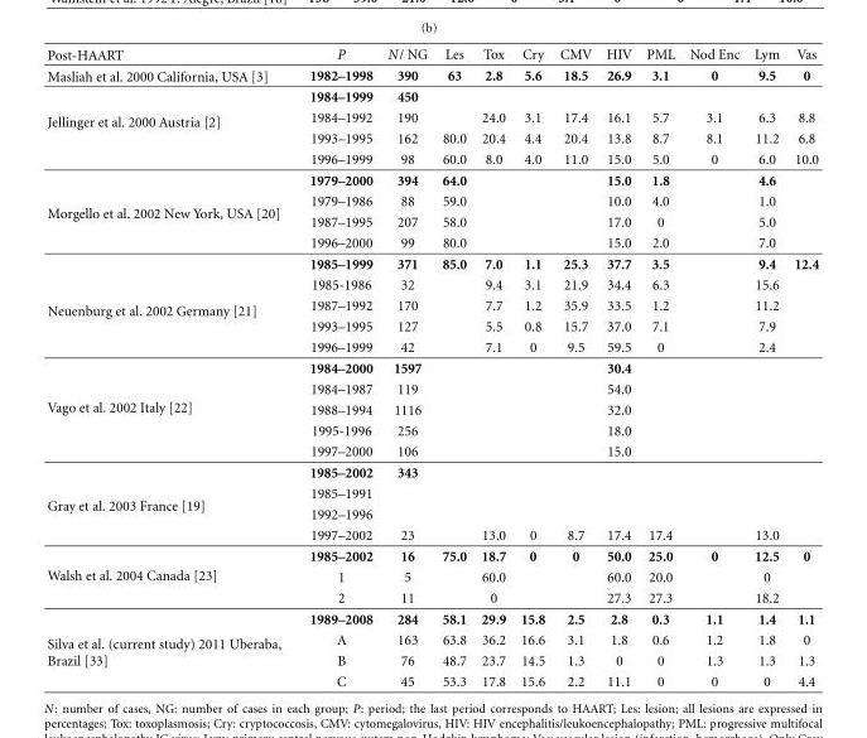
<table><thead><tr><td>Post-HAART</td><td>P</td><td>N/ NG</td><td>Les</td><td>Tox</td><td>Cry</td><td>CMV</td><td>HIV</td><td>PML</td><td>Nod Enc</td><td>Lym</td><td>Vas</td></tr></thead><tbody><tr><td>Masliah et al. 2000 California, USA [3]</td><td>1982–1998</td><td>390</td><td>63</td><td>2.8</td><td>5.6</td><td>18.5</td><td>26.9</td><td>3.1</td><td>0</td><td>9.5</td><td>0</td></tr><tr><td rowspan="4">Jellinger et al. 2000 Austria [2]</td><td>1984–1999</td><td>450</td><td></td><td></td><td></td><td></td><td></td><td></td><td></td><td></td><td></td></tr><tr><td>1984–1992</td><td>190</td><td></td><td>24.0</td><td>3.1</td><td>17.4</td><td>16.1</td><td>5.7</td><td>3.1</td><td>6.3</td><td>8.8</td></tr><tr><td>1993–1995</td><td>162</td><td>80.0</td><td>20.4</td><td>4.4</td><td>20.4</td><td>13.8</td><td>8.7</td><td>8.1</td><td>11.2</td><td>6.8</td></tr><tr><td>1996–1999</td><td>98</td><td>60.0</td><td>8.0</td><td>4.0</td><td>11.0</td><td>15.0</td><td>5.0</td><td>0</td><td>6.0</td><td>10.0</td></tr><tr><td rowspan="4">Morgello et al. 2002 New York, USA [20]</td><td>1979–2000</td><td>394</td><td>64.0</td><td></td><td></td><td></td><td>15.0</td><td>1.8</td><td></td><td>4.6</td><td></td></tr><tr><td>1979–1986</td><td>88</td><td>59.0</td><td></td><td></td><td></td><td>10.0</td><td>4.0</td><td></td><td>1.0</td><td></td></tr><tr><td>1987–1995</td><td>207</td><td>58.0</td><td></td><td></td><td></td><td>17.0</td><td>0</td><td></td><td>5.0</td><td></td></tr><tr><td>1996–2000</td><td>99</td><td>80.0</td><td></td><td></td><td></td><td>15.0</td><td>2.0</td><td></td><td>7.0</td><td></td></tr><tr><td rowspan="5">Neuenburg et al. 2002 Germany [21]</td><td>1985–1999</td><td>371</td><td>85.0</td><td>7.0</td><td>1.1</td><td>25.3</td><td>37.7</td><td>3.5</td><td></td><td>9.4</td><td>12.4</td></tr><tr><td>1985-1986</td><td>32</td><td></td><td>9.4</td><td>3.1</td><td>21.9</td><td>34.4</td><td>6.3</td><td></td><td>15.6</td><td></td></tr><tr><td>1987–1992</td><td>170</td><td></td><td>7.7</td><td>1.2</td><td>35.9</td><td>33.5</td><td>1.2</td><td></td><td>11.2</td><td></td></tr><tr><td>1993–1995</td><td>127</td><td></td><td>5.5</td><td>0.8</td><td>15.7</td><td>37.0</td><td>7.1</td><td></td><td>7.9</td><td></td></tr><tr><td>1996–1999</td><td>42</td><td></td><td>7.1</td><td>0</td><td>9.5</td><td>59.5</td><td>0</td><td></td><td>2.4</td><td></td></tr><tr><td rowspan="5">Vago et al. 2002 Italy [22]</td><td>1984–2000</td><td>1597</td><td></td><td></td><td></td><td></td><td>30.4</td><td></td><td></td><td></td><td></td></tr><tr><td>1984–1987</td><td>119</td><td></td><td></td><td></td><td></td><td>54.0</td><td></td><td></td><td></td><td></td></tr><tr><td>1988–1994</td><td>1116</td><td></td><td></td><td></td><td></td><td>32.0</td><td></td><td></td><td></td><td></td></tr><tr><td>1995-1996</td><td>256</td><td></td><td></td><td></td><td></td><td>18.0</td><td></td><td></td><td></td><td></td></tr><tr><td>1997–2000</td><td>106</td><td></td><td></td><td></td><td></td><td>15.0</td><td></td><td></td><td></td><td></td></tr><tr><td rowspan="4">Gray et al. 2003 France [19]</td><td>1985–2002</td><td>343</td><td></td><td></td><td></td><td></td><td></td><td></td><td></td><td></td><td></td></tr><tr><td>1985–1991</td><td></td><td></td><td></td><td></td><td></td><td></td><td></td><td></td><td></td><td></td></tr><tr><td>1992–1996</td><td></td><td></td><td></td><td></td><td></td><td></td><td></td><td></td><td></td><td></td></tr><tr><td>1997–2002</td><td>23</td><td></td><td>13.0</td><td>0</td><td>8.7</td><td>17.4</td><td>17.4</td><td></td><td>13.0</td><td></td></tr><tr><td rowspan="3">Walsh et al. 2004 Canada [23]</td><td>1985–2002</td><td>16</td><td>75.0</td><td>18.7</td><td>0</td><td>0</td><td>50.0</td><td>25.0</td><td>0</td><td>12.5</td><td>0</td></tr><tr><td>1</td><td>5</td><td></td><td>60.0</td><td></td><td></td><td>60.0</td><td>20.0</td><td></td><td>0</td><td></td></tr><tr><td>2</td><td>11</td><td></td><td>0</td><td></td><td></td><td>27.3</td><td>27.3</td><td></td><td>18.2</td><td></td></tr><tr><td rowspan="4">Silva et al. (current study) 2011 Uberaba, Brazil [33]</td><td>1989–2008</td><td>284</td><td>58.1</td><td>29.9</td><td>15.8</td><td>2.5</td><td>2.8</td><td>0.3</td><td>1.1</td><td>1.4</td><td>1.1</td></tr><tr><td>A</td><td>163</td><td>63.8</td><td>36.2</td><td>16.6</td><td>3.1</td><td>1.8</td><td>0.6</td><td>1.2</td><td>1.8</td><td>0</td></tr><tr><td>B</td><td>76</td><td>48.7</td><td>23.7</td><td>14.5</td><td>1.3</td><td>0</td><td>0</td><td>1.3</td><td>1.3</td><td>1.3</td></tr><tr><td>C</td><td>45</td><td>53.3</td><td>17.8</td><td>15.6</td><td>2.2</td><td>11.1</td><td>0</td><td>0</td><td>0</td><td>4.4</td></tr></tbody></table>